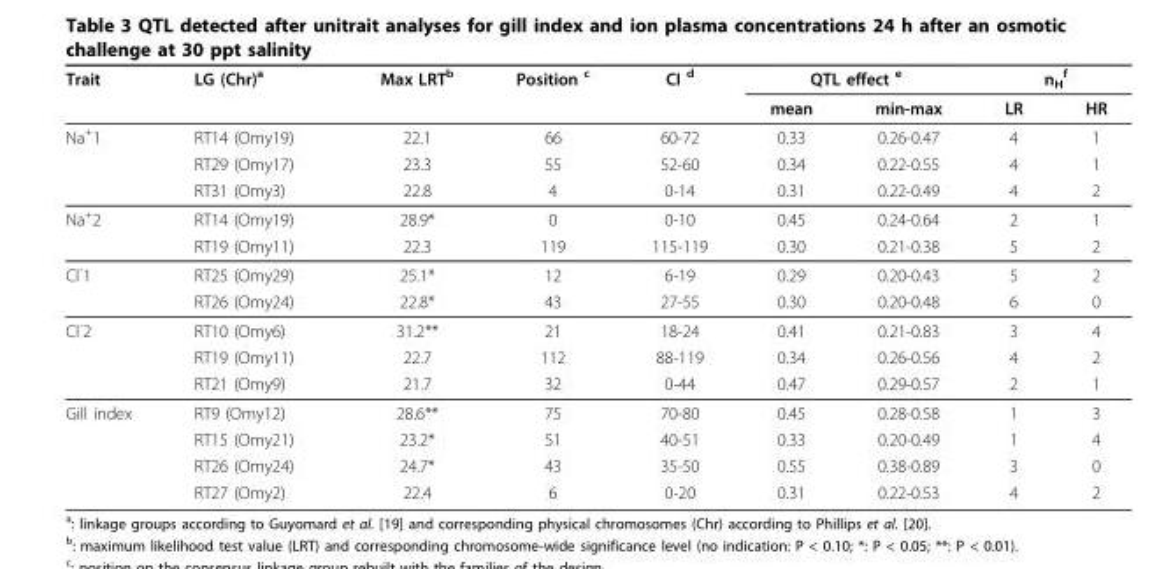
<table><thead><tr><td rowspan="2">Trait</td><td rowspan="2">LG (Chr)<sup>a</sup></td><td rowspan="2">Max LRT<sup>b</sup></td><td rowspan="2">Position <sup>c</sup></td><td rowspan="2">CI <sup>d</sup></td><td colspan="2">QTL effect <sup>e</sup></td><td colspan="2">n<sub>H</sub> <sup>f</sup></td></tr><tr><td>mean</td><td>min-max</td><td>LR</td><td>HR</td></tr></thead><tbody><tr><td rowspan="3">Na<sup>+</sup>1</td><td>RT14 (Omy19)</td><td>22.1</td><td>66</td><td>60-72</td><td>0.33</td><td>0.26-0.47</td><td>4</td><td>1</td></tr><tr><td>RT29 (Omy17)</td><td>23.3</td><td>55</td><td>52-60</td><td>0.34</td><td>0.22-0.55</td><td>4</td><td>1</td></tr><tr><td>RT31 (Omy3)</td><td>22.8</td><td>4</td><td>0-14</td><td>0.31</td><td>0.22-0.49</td><td>4</td><td>2</td></tr><tr><td rowspan="2">Na<sup>+</sup>2</td><td>RT14 (Omy19)</td><td>28.9*</td><td>0</td><td>0-10</td><td>0.45</td><td>0.24-0.64</td><td>2</td><td>1</td></tr><tr><td>RT19 (Omy11)</td><td>22.3</td><td>119</td><td>115-119</td><td>0.30</td><td>0.21-0.38</td><td>5</td><td>2</td></tr><tr><td rowspan="2">Cl<sup>-</sup>1</td><td>RT25 (Omy29)</td><td>25.1*</td><td>12</td><td>6-19</td><td>0.29</td><td>0.20-0.43</td><td>5</td><td>2</td></tr><tr><td>RT26 (Omy24)</td><td>22.8*</td><td>43</td><td>27-55</td><td>0.30</td><td>0.20-0.48</td><td>6</td><td>0</td></tr><tr><td rowspan="3">Cl<sup>-</sup>2</td><td>RT10 (Omy6)</td><td>31.2**</td><td>21</td><td>18-24</td><td>0.41</td><td>0.21-0.83</td><td>3</td><td>4</td></tr><tr><td>RT19 (Omy11)</td><td>22.7</td><td>112</td><td>88-119</td><td>0.34</td><td>0.26-0.56</td><td>4</td><td>2</td></tr><tr><td>RT21 (Omy9)</td><td>21.7</td><td>32</td><td>0-44</td><td>0.47</td><td>0.29-0.57</td><td>2</td><td>1</td></tr><tr><td rowspan="4">Gill index</td><td>RT9 (Omy12)</td><td>28.6**</td><td>75</td><td>70-80</td><td>0.45</td><td>0.28-0.58</td><td>1</td><td>3</td></tr><tr><td>RT15 (Omy21)</td><td>23.2*</td><td>51</td><td>40-51</td><td>0.33</td><td>0.20-0.49</td><td>1</td><td>4</td></tr><tr><td>RT26 (Omy24)</td><td>24.7*</td><td>43</td><td>35-50</td><td>0.55</td><td>0.38-0.89</td><td>3</td><td>0</td></tr><tr><td>RT27 (Omy2)</td><td>22.4</td><td>6</td><td>0-20</td><td>0.31</td><td>0.22-0.53</td><td>4</td><td>2</td></tr></tbody></table>